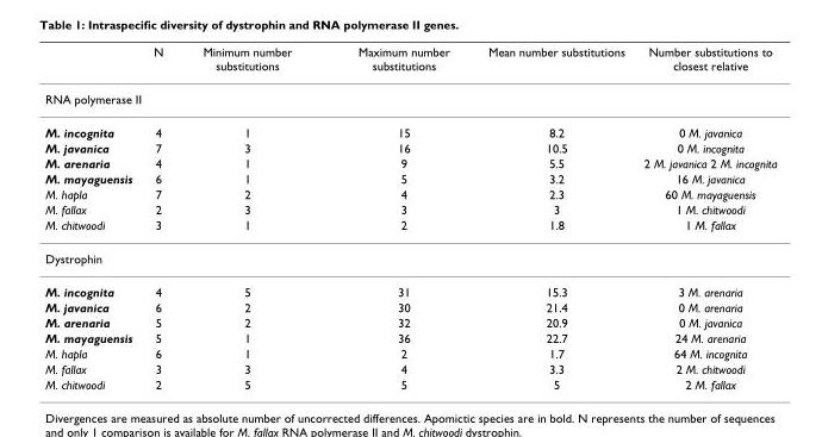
<table><thead><tr><td></td><td>N</td><td>Minimum number substitutions</td><td>Maximum number substitutions</td><td>Mean number substitutions</td><td>Number substitutions to closest relative</td></tr></thead><tbody><tr><td colspan="6">RNA polymerase II</td></tr><tr><td>M. incognita</td><td>4</td><td>1</td><td>15</td><td>8.2</td><td>0 M. javanica</td></tr><tr><td>M. javanica</td><td>7</td><td>3</td><td>16</td><td>10.5</td><td>0 M. incognita</td></tr><tr><td>M. arenaria</td><td>4</td><td>1</td><td>9</td><td>5.5</td><td>2 M. javanica 2 M. incognita</td></tr><tr><td>M. mayaguensis</td><td>6</td><td>1</td><td>5</td><td>3.2</td><td>16 M. javanica</td></tr><tr><td>M. hapla</td><td>7</td><td>2</td><td>4</td><td>2.3</td><td>60 M. mayaguensis</td></tr><tr><td>M. fallax</td><td>2</td><td>3</td><td>3</td><td>3</td><td>1 M. chitwoodi</td></tr><tr><td>M. chitwoodi</td><td>3</td><td>1</td><td>2</td><td>1.8</td><td>1 M. fallax</td></tr><tr><td colspan="6">Dystrophin</td></tr><tr><td>M. incognita</td><td>4</td><td>5</td><td>31</td><td>15.3</td><td>3 M. arenaria</td></tr><tr><td>M. javanica</td><td>6</td><td>2</td><td>30</td><td>21.4</td><td>0 M. arenaria</td></tr><tr><td>M. arenaria</td><td>5</td><td>2</td><td>32</td><td>20.9</td><td>0 M. javanica</td></tr><tr><td>M. mayaguensis</td><td>5</td><td>1</td><td>36</td><td>22.7</td><td>24 M. arenaria</td></tr><tr><td>M. hapla</td><td>6</td><td>1</td><td>2</td><td>1.7</td><td>64 M. incognita</td></tr><tr><td>M. fallax</td><td>3</td><td>3</td><td>4</td><td>3.3</td><td>2 M. chitwoodi</td></tr><tr><td>M. chitwoodi</td><td>2</td><td>5</td><td>5</td><td>5</td><td>2 M. fallax</td></tr></tbody></table>